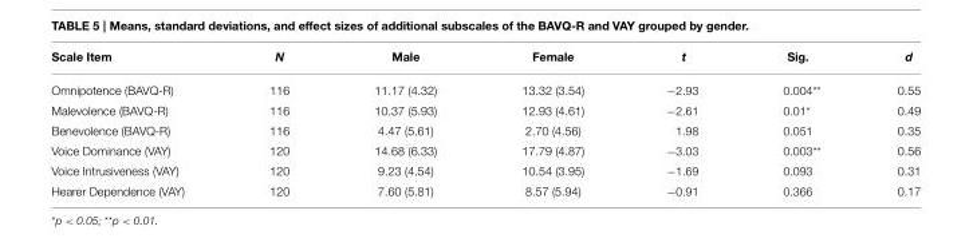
<table><thead><tr><td>Scale Item</td><td>N</td><td>Male</td><td>Female</td><td>t</td><td>Sig.</td><td>d</td></tr></thead><tbody><tr><td>Omnipotence (BAVQ-R)</td><td>116</td><td>11.17 (4.32)</td><td>13.32 (3.54)</td><td>−2.93</td><td>0.004**</td><td>0.55</td></tr><tr><td>Malevolence (BAVQ-R)</td><td>116</td><td>10.37 (5.93)</td><td>12.93 (4.61)</td><td>−2.61</td><td>0.01*</td><td>0.49</td></tr><tr><td>Benevolence (BAVQ-R)</td><td>116</td><td>4.47 (5.61)</td><td>2.70 (4.56)</td><td>1.98</td><td>0.051</td><td>0.35</td></tr><tr><td>Voice Dominance (VAY)</td><td>120</td><td>14.68 (6.33)</td><td>17.79 (4.87)</td><td>−3.03</td><td>0.003**</td><td>0.56</td></tr><tr><td>Voice Intrusiveness (VAY)</td><td>120</td><td>9.23 (4.54)</td><td>10.54 (3.95)</td><td>−1.69</td><td>0.093</td><td>0.31</td></tr><tr><td>Hearer Dependence (VAY)</td><td>120</td><td>7.60 (5.81)</td><td>8.57 (5.94)</td><td>−0.91</td><td>0.366</td><td>0.17</td></tr></tbody></table>